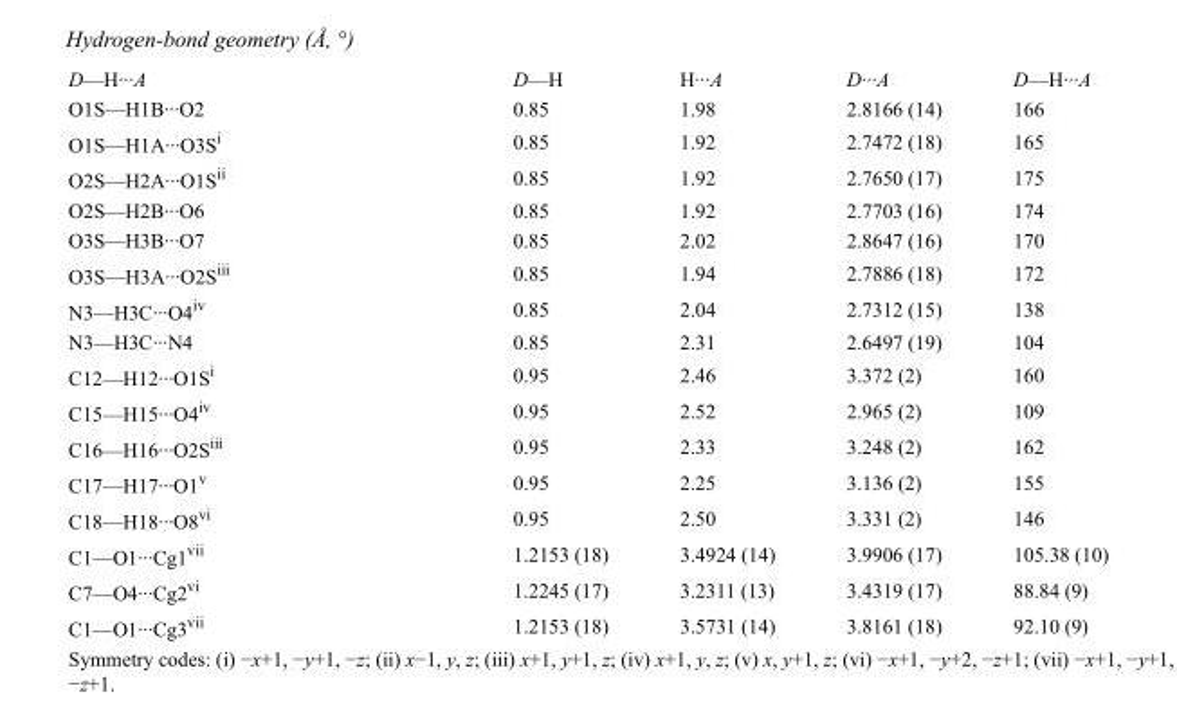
<table><tbody><tr><td>D—H···A</td><td>D—H</td><td>H···A</td><td>D···A</td><td>D—H···A</td></tr><tr><td>O1S—H1B···O2</td><td>0.85</td><td>1.98</td><td>2.8166 (14)</td><td>166</td></tr><tr><td>O1S—H1A···O3S<sup>i</sup></td><td>0.85</td><td>1.92</td><td>2.7472 (18)</td><td>165</td></tr><tr><td>O2S—H2A···O1S<sup>ii</sup></td><td>0.85</td><td>1.92</td><td>2.7650 (17)</td><td>175</td></tr><tr><td>O2S—H2B···O6</td><td>0.85</td><td>1.92</td><td>2.7703 (16)</td><td>174</td></tr><tr><td>O3S—H3B···O7</td><td>0.85</td><td>2.02</td><td>2.8647 (16)</td><td>170</td></tr><tr><td>O3S—H3A···O2S<sup>iii</sup></td><td>0.85</td><td>1.94</td><td>2.7886 (18)</td><td>172</td></tr><tr><td>N3—H3C···O4<sup>iv</sup></td><td>0.85</td><td>2.04</td><td>2.7312 (15)</td><td>138</td></tr><tr><td>N3—H3C···N4</td><td>0.85</td><td>2.31</td><td>2.6497 (19)</td><td>104</td></tr><tr><td>C12—H12···O1S<sup>i</sup></td><td>0.95</td><td>2.46</td><td>3.372 (2)</td><td>160</td></tr><tr><td>C15—H15···O4<sup>iv</sup></td><td>0.95</td><td>2.52</td><td>2.965 (2)</td><td>109</td></tr><tr><td>C16—H16···O2S<sup>iii</sup></td><td>0.95</td><td>2.33</td><td>3.248 (2)</td><td>162</td></tr><tr><td>C17—H17···O1<sup>v</sup></td><td>0.95</td><td>2.25</td><td>3.136 (2)</td><td>155</td></tr><tr><td>C18—H18···O8<sup>vi</sup></td><td>0.95</td><td>2.50</td><td>3.331 (2)</td><td>146</td></tr><tr><td>C1—O1···Cg1<sup>vii</sup></td><td>1.2153 (18)</td><td>3.4924 (14)</td><td>3.9906 (17)</td><td>105.38 (10)</td></tr><tr><td>C7—O4···Cg2<sup>vi</sup></td><td>1.2245 (17)</td><td>3.2311 (13)</td><td>3.4319 (17)</td><td>88.84 (9)</td></tr><tr><td>C1—O1···Cg3<sup>vii</sup></td><td>1.2153 (18)</td><td>3.5731 (14)</td><td>3.8161 (18)</td><td>92.10 (9)</td></tr></tbody></table>